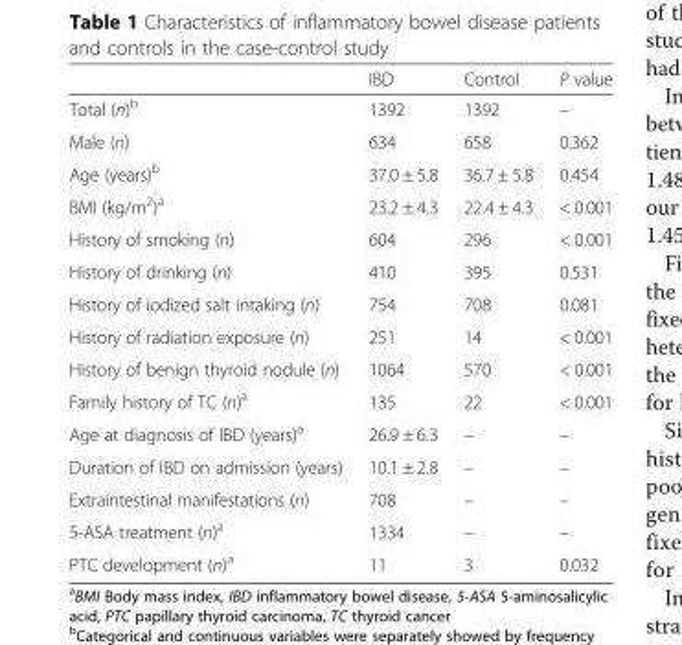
<table><thead><tr><td></td><td>IBD</td><td>Control</td><td>P value</td></tr></thead><tbody><tr><td>Total (n)<sup>b</sup></td><td>1392</td><td>1392</td><td>–</td></tr><tr><td>Male (n)</td><td>634</td><td>658</td><td>0.362</td></tr><tr><td>Age (years)<sup>b</sup></td><td>37.0 ± 5.8</td><td>36.7 ± 5.8</td><td>0.454</td></tr><tr><td>BMI (kg/m<sup>2</sup>)<sup>a</sup></td><td>23.2 ± 4.3</td><td>22.4 ± 4.3</td><td>&lt; 0.001</td></tr><tr><td>History of smoking (n)</td><td>604</td><td>296</td><td>&lt; 0.001</td></tr><tr><td>History of drinking (n)</td><td>410</td><td>395</td><td>0.531</td></tr><tr><td>History of iodized salt intaking (n)</td><td>754</td><td>708</td><td>0.081</td></tr><tr><td>History of radiation exposure (n)</td><td>251</td><td>14</td><td>&lt; 0.001</td></tr><tr><td>History of benign thyroid nodule (n)</td><td>1064</td><td>570</td><td>&lt; 0.001</td></tr><tr><td>Family history of TC (n)<sup>a</sup></td><td>135</td><td>22</td><td>&lt; 0.001</td></tr><tr><td>Age at diagnosis of IBD (years)<sup>a</sup></td><td>26.9 ± 6.3</td><td>–</td><td>–</td></tr><tr><td>Duration of IBD on admission (years)</td><td>10.1 ± 2.8</td><td>–</td><td>–</td></tr><tr><td>Extraintestinal manifestations (n)</td><td>708</td><td>–</td><td>–</td></tr><tr><td>5-ASA treatment (n)<sup>a</sup></td><td>1334</td><td>–</td><td>–</td></tr><tr><td>PTC development (n)<sup>a</sup></td><td>11</td><td>3</td><td>0.032</td></tr></tbody></table>